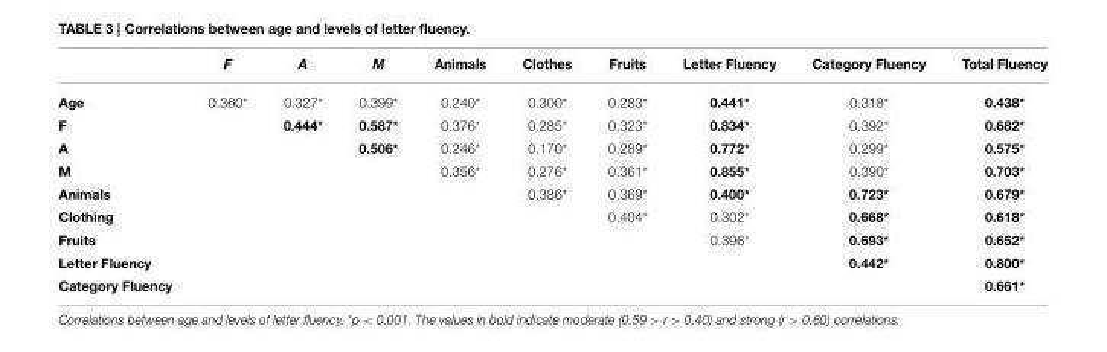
<table><thead><tr><td></td><td>F</td><td>A</td><td>M</td><td>Animals</td><td>Clothes</td><td>Fruits</td><td>Letter Fluency</td><td>Category Fluency</td><td>Total Fluency</td></tr></thead><tbody><tr><td>Age</td><td>0.360*</td><td>0.327*</td><td>0.399*</td><td>0.240*</td><td>0.300*</td><td>0.283*</td><td>0.441*</td><td>0.318*</td><td>0.438*</td></tr><tr><td>F</td><td></td><td>0.444*</td><td>0.587*</td><td>0.376*</td><td>0.285*</td><td>0.323*</td><td>0.834*</td><td>0.392*</td><td>0.682*</td></tr><tr><td>A</td><td></td><td></td><td>0.506*</td><td>0.246*</td><td>0.170*</td><td>0.289*</td><td>0.772*</td><td>0.299*</td><td>0.575*</td></tr><tr><td>M</td><td></td><td></td><td></td><td>0.356*</td><td>0.276*</td><td>0.361*</td><td>0.855*</td><td>0.390*</td><td>0.703*</td></tr><tr><td>Animals</td><td></td><td></td><td></td><td></td><td>0.386*</td><td>0.369*</td><td>0.400*</td><td>0.723*</td><td>0.679*</td></tr><tr><td>Clothing</td><td></td><td></td><td></td><td></td><td></td><td>0.404*</td><td>0.302*</td><td>0.668*</td><td>0.618*</td></tr><tr><td>Fruits</td><td></td><td></td><td></td><td></td><td></td><td></td><td>0.396*</td><td>0.693*</td><td>0.652*</td></tr><tr><td>Letter Fluency</td><td></td><td></td><td></td><td></td><td></td><td></td><td></td><td>0.442*</td><td>0.800*</td></tr><tr><td>Category Fluency</td><td></td><td></td><td></td><td></td><td></td><td></td><td></td><td></td><td>0.661*</td></tr></tbody></table>